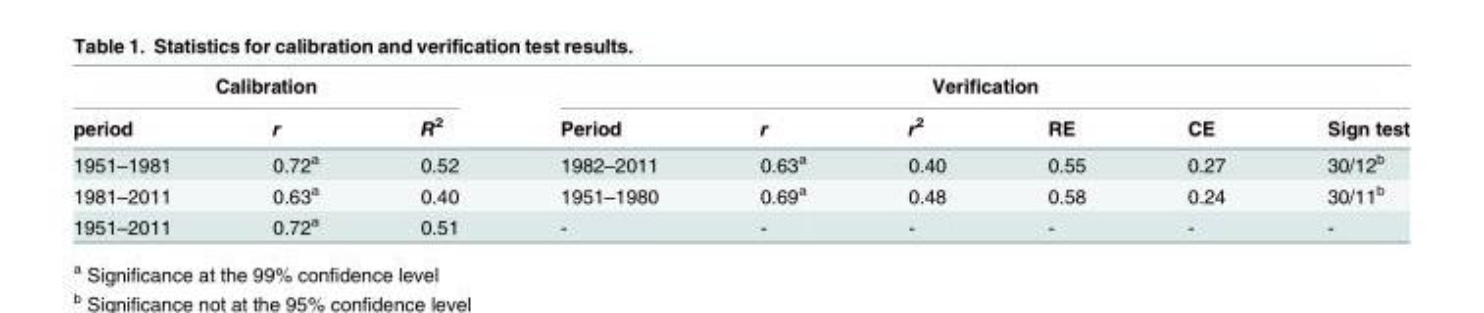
<table><thead><tr><td colspan="3">Calibration</td><td colspan="6">Verification</td></tr><tr><td>period</td><td>r</td><td>R<sup>2</sup></td><td>Period</td><td>r</td><td>r<sup>2</sup></td><td>RE</td><td>CE</td><td>Sign test</td></tr></thead><tbody><tr><td>1951–1981</td><td>0.72<sup>a</sup></td><td>0.52</td><td>1982–2011</td><td>0.63<sup>a</sup></td><td>0.40</td><td>0.55</td><td>0.27</td><td>30/12<sup>b</sup></td></tr><tr><td>1981–2011</td><td>0.63<sup>a</sup></td><td>0.40</td><td>1951–1980</td><td>0.69<sup>a</sup></td><td>0.48</td><td>0.58</td><td>0.24</td><td>30/11<sup>b</sup></td></tr><tr><td>1951–2011</td><td>0.72<sup>a</sup></td><td>0.51</td><td>-</td><td>-</td><td>-</td><td>-</td><td>-</td><td>-</td></tr></tbody></table>